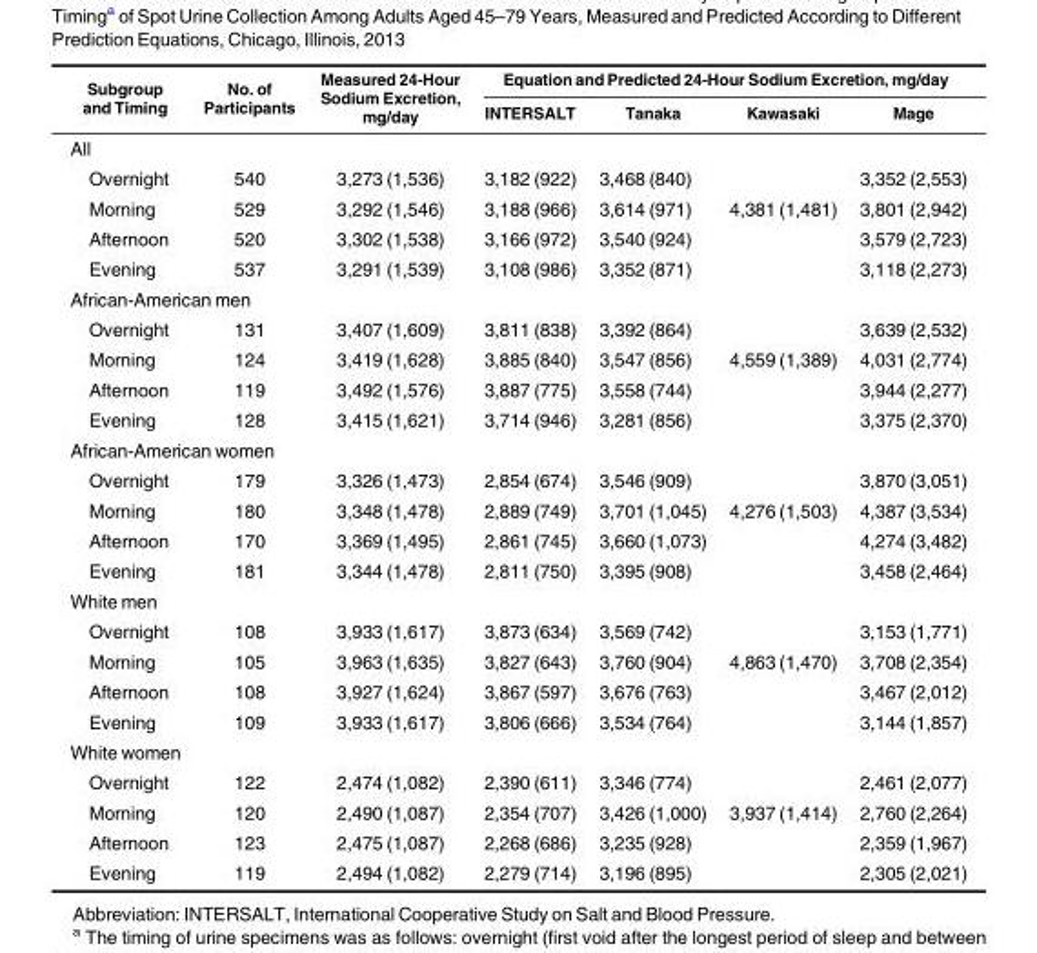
<table><thead><tr><td rowspan="2">Subgroup and Timing</td><td rowspan="2">No. of Participants</td><td rowspan="2">Measured 24-Hour Sodium Excretion, mg/day</td><td colspan="4">Equation and Predicted 24-Hour Sodium Excretion, mg/day</td></tr><tr><td>INTERSALT</td><td>Tanaka</td><td>Kawasaki</td><td>Mage</td></tr></thead><tbody><tr><td colspan="7">All</td></tr><tr><td>Overnight</td><td>540</td><td>3,273 (1,536)</td><td>3,182 (922)</td><td>3,468 (840)</td><td></td><td>3,352 (2,553)</td></tr><tr><td>Morning</td><td>529</td><td>3,292 (1,546)</td><td>3,188 (966)</td><td>3,614 (971)</td><td>4,381 (1,481)</td><td>3,801 (2,942)</td></tr><tr><td>Afternoon</td><td>520</td><td>3,302 (1,538)</td><td>3,166 (972)</td><td>3,540 (924)</td><td></td><td>3,579 (2,723)</td></tr><tr><td>Evening</td><td>537</td><td>3,291 (1,539)</td><td>3,108 (986)</td><td>3,352 (871)</td><td></td><td>3,118 (2,273)</td></tr><tr><td colspan="7">African-American men</td></tr><tr><td>Overnight</td><td>131</td><td>3,407 (1,609)</td><td>3,811 (838)</td><td>3,392 (864)</td><td></td><td>3,639 (2,532)</td></tr><tr><td>Morning</td><td>124</td><td>3,419 (1,628)</td><td>3,885 (840)</td><td>3,547 (856)</td><td>4,559 (1,389)</td><td>4,031 (2,774)</td></tr><tr><td>Afternoon</td><td>119</td><td>3,492 (1,576)</td><td>3,887 (775)</td><td>3,558 (744)</td><td></td><td>3,944 (2,277)</td></tr><tr><td>Evening</td><td>128</td><td>3,415 (1,621)</td><td>3,714 (946)</td><td>3,281 (856)</td><td></td><td>3,375 (2,370)</td></tr><tr><td colspan="7">African-American women</td></tr><tr><td>Overnight</td><td>179</td><td>3,326 (1,473)</td><td>2,854 (674)</td><td>3,546 (909)</td><td></td><td>3,870 (3,051)</td></tr><tr><td>Morning</td><td>180</td><td>3,348 (1,478)</td><td>2,889 (749)</td><td>3,701 (1,045)</td><td>4,276 (1,503)</td><td>4,387 (3,534)</td></tr><tr><td>Afternoon</td><td>170</td><td>3,369 (1,495)</td><td>2,861 (745)</td><td>3,660 (1,073)</td><td></td><td>4,274 (3,482)</td></tr><tr><td>Evening</td><td>181</td><td>3,344 (1,478)</td><td>2,811 (750)</td><td>3,395 (908)</td><td></td><td>3,458 (2,464)</td></tr><tr><td colspan="7">White men</td></tr><tr><td>Overnight</td><td>108</td><td>3,933 (1,617)</td><td>3,873 (634)</td><td>3,569 (742)</td><td></td><td>3,153 (1,771)</td></tr><tr><td>Morning</td><td>105</td><td>3,963 (1,635)</td><td>3,827 (643)</td><td>3,760 (904)</td><td>4,863 (1,470)</td><td>3,708 (2,354)</td></tr><tr><td>Afternoon</td><td>108</td><td>3,927 (1,624)</td><td>3,867 (597)</td><td>3,676 (763)</td><td></td><td>3,467 (2,012)</td></tr><tr><td>Evening</td><td>109</td><td>3,933 (1,617)</td><td>3,806 (666)</td><td>3,534 (764)</td><td></td><td>3,144 (1,857)</td></tr><tr><td colspan="7">White women</td></tr><tr><td>Overnight</td><td>122</td><td>2,474 (1,082)</td><td>2,390 (611)</td><td>3,346 (774)</td><td></td><td>2,461 (2,077)</td></tr><tr><td>Morning</td><td>120</td><td>2,490 (1,087)</td><td>2,354 (707)</td><td>3,426 (1,000)</td><td>3,937 (1,414)</td><td>2,760 (2,264)</td></tr><tr><td>Afternoon</td><td>123</td><td>2,475 (1,087)</td><td>2,268 (686)</td><td>3,235 (928)</td><td></td><td>2,359 (1,967)</td></tr><tr><td>Evening</td><td>119</td><td>2,494 (1,082)</td><td>2,279 (714)</td><td>3,196 (895)</td><td></td><td>2,305 (2,021)</td></tr></tbody></table>